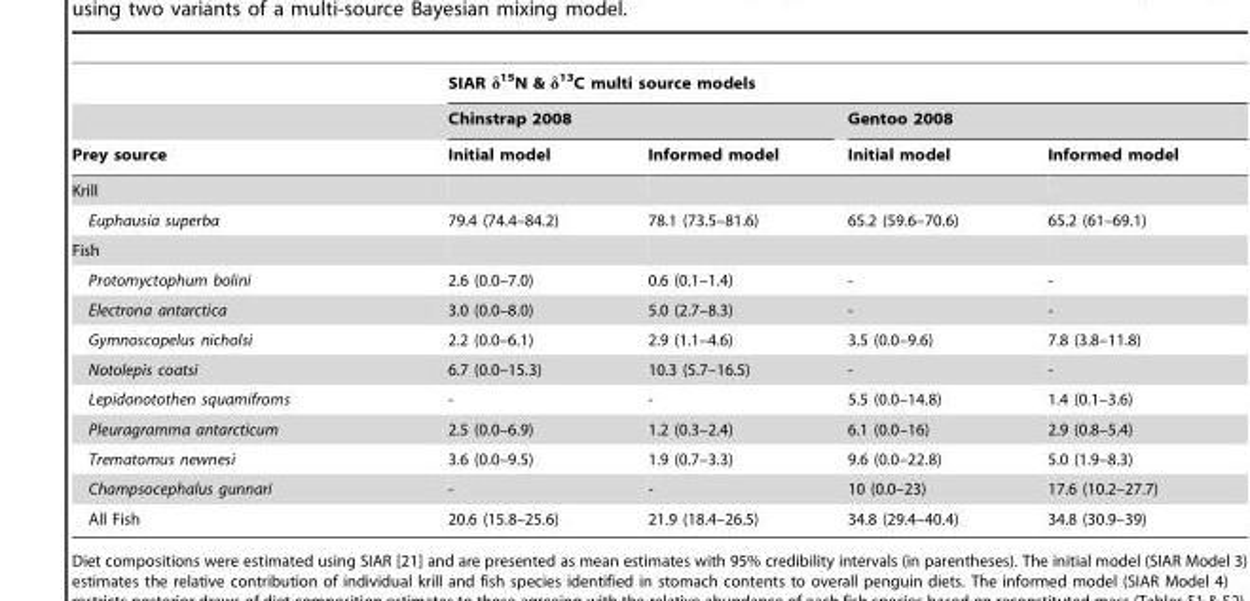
<table><thead><tr><td rowspan="3">Prey source</td><td colspan="4">SIAR δ<sup>15</sup>N &amp; δ<sup>13</sup>C multi source models</td></tr><tr><td colspan="2">Chinstrap 2008</td><td colspan="2">Gentoo 2008</td></tr><tr><td>Initial model</td><td>Informed model</td><td>Initial model</td><td>Informed model</td></tr></thead><tbody><tr><td colspan="5">Krill</td></tr><tr><td>Euphausia superba</td><td>79.4 (74.4–84.2)</td><td>78.1 (73.5–81.6)</td><td>65.2 (59.6–70.6)</td><td>65.2 (61–69.1)</td></tr><tr><td colspan="5">Fish</td></tr><tr><td>Protomyctophum bolini</td><td>2.6 (0.0–7.0)</td><td>0.6 (0.1–1.4)</td><td>-</td><td>-</td></tr><tr><td>Electrona antarctica</td><td>3.0 (0.0–8.0)</td><td>5.0 (2.7–8.3)</td><td>-</td><td>-</td></tr><tr><td>Gymnoscopelus nicholsi</td><td>2.2 (0.0–6.1)</td><td>2.9 (1.1–4.6)</td><td>3.5 (0.0–9.6)</td><td>7.8 (3.8–11.8)</td></tr><tr><td>Notolepis coatsi</td><td>6.7 (0.0–15.3)</td><td>10.3 (5.7–16.5)</td><td>-</td><td>-</td></tr><tr><td>Lepidonotothen squamifroms</td><td>-</td><td>-</td><td>5.5 (0.0–14.8)</td><td>1.4 (0.1–3.6)</td></tr><tr><td>Pleuragramma antarcticum</td><td>2.5 (0.0–6.9)</td><td>1.2 (0.3–2.4)</td><td>6.1 (0.0–16)</td><td>2.9 (0.8–5.4)</td></tr><tr><td>Trematomus newnesi</td><td>3.6 (0.0–9.5)</td><td>1.9 (0.7–3.3)</td><td>9.6 (0.0–22.8)</td><td>5.0 (1.9–8.3)</td></tr><tr><td>Champsocephalus gunnari</td><td>-</td><td>-</td><td>10 (0.0–23)</td><td>17.6 (10.2–27.7)</td></tr><tr><td>All Fish</td><td>20.6 (15.8–25.6)</td><td>21.9 (18.4–26.5)</td><td>34.8 (29.4–40.4)</td><td>34.8 (30.9–39)</td></tr></tbody></table>